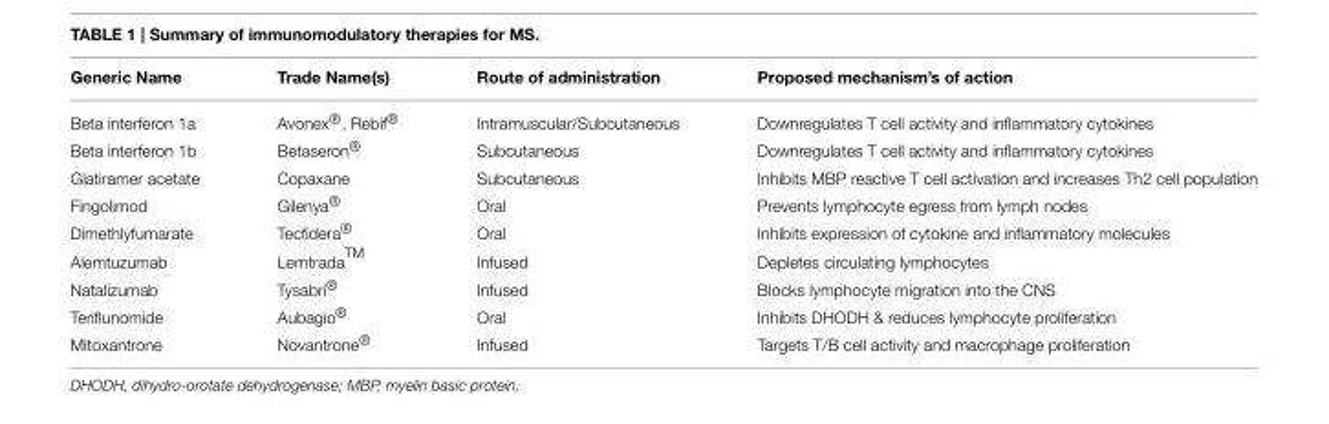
<table><thead><tr><td>Generic Name</td><td>Trade Name(s)</td><td>Route of administration</td><td>Proposed mechanism’s of action</td></tr></thead><tbody><tr><td>Beta interferon 1a</td><td>Avonex®, Rebif®</td><td>Intramuscular/Subcutaneous</td><td>Downregulates T cell activity and inflammatory cytokines</td></tr><tr><td>Beta interferon 1b</td><td>Betaseron®</td><td>Subcutaneous</td><td>Downregulates T cell activity and inflammatory cytokines</td></tr><tr><td>Glatiramer acetate</td><td>Copaxane</td><td>Subcutaneous</td><td>Inhibits MBP reactive T cell activation and increases Th2 cell population</td></tr><tr><td>Fingolimod</td><td>Gilenya®</td><td>Oral</td><td>Prevents lymphocyte egress from lymph nodes</td></tr><tr><td>Dimethlyfumarate</td><td>Tecfidera®</td><td>Oral</td><td>Inhibits expression of cytokine and inflammatory molecules</td></tr><tr><td>Alemtuzumab</td><td>Lemtrada<sup>TM</sup></td><td>Infused</td><td>Depletes circulating lymphocytes</td></tr><tr><td>Natalizumab</td><td>Tysabri®</td><td>Infused</td><td>Blocks lymphocyte migration into the CNS</td></tr><tr><td>Teriflunomide</td><td>Aubagio®</td><td>Oral</td><td>Inhibits DHODH &amp; reduces lymphocyte proliferation</td></tr><tr><td>Mitoxantrone</td><td>Novantrone®</td><td>Infused</td><td>Targets T/B cell activity and macrophage proliferation</td></tr></tbody></table>